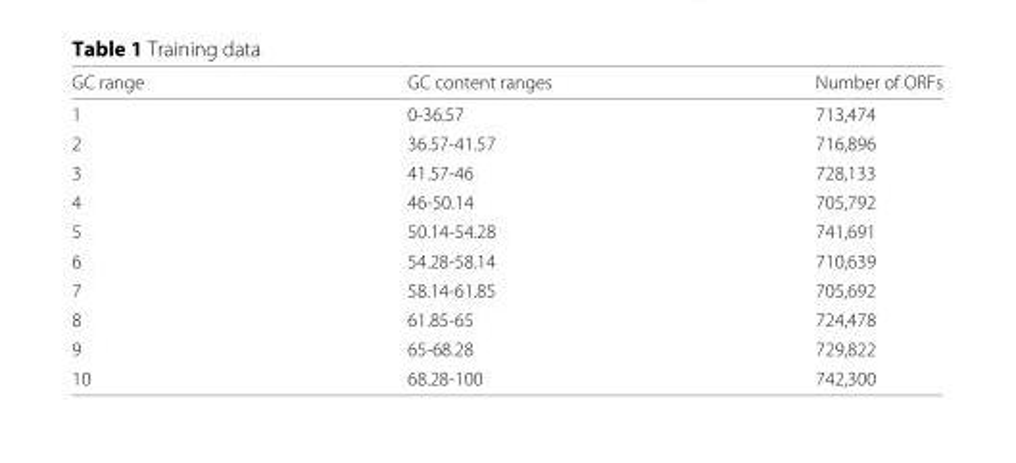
<table><thead><tr><td>GC range</td><td>GC content ranges</td><td>Number of ORFs</td></tr></thead><tbody><tr><td>1</td><td>0-36.57</td><td>713,474</td></tr><tr><td>2</td><td>36.57-41.57</td><td>716,896</td></tr><tr><td>3</td><td>41.57-46</td><td>728,133</td></tr><tr><td>4</td><td>46-50.14</td><td>705,792</td></tr><tr><td>5</td><td>50.14-54.28</td><td>741,691</td></tr><tr><td>6</td><td>54.28-58.14</td><td>710,639</td></tr><tr><td>7</td><td>58.14-61.85</td><td>705,692</td></tr><tr><td>8</td><td>61.85-65</td><td>724,478</td></tr><tr><td>9</td><td>65-68.28</td><td>729,822</td></tr><tr><td>10</td><td>68.28-100</td><td>742,300</td></tr></tbody></table>